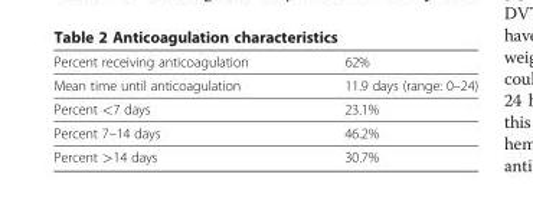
<table><tbody><tr><td>Percent receiving anticoagulation</td><td>62%</td></tr><tr><td>Mean time until anticoagulation</td><td>11.9 days (range: 0–24)</td></tr><tr><td>Percent &lt;7 days</td><td>23.1%</td></tr><tr><td>Percent 7–14 days</td><td>46.2%</td></tr><tr><td>Percent &gt;14 days</td><td>30.7%</td></tr></tbody></table>